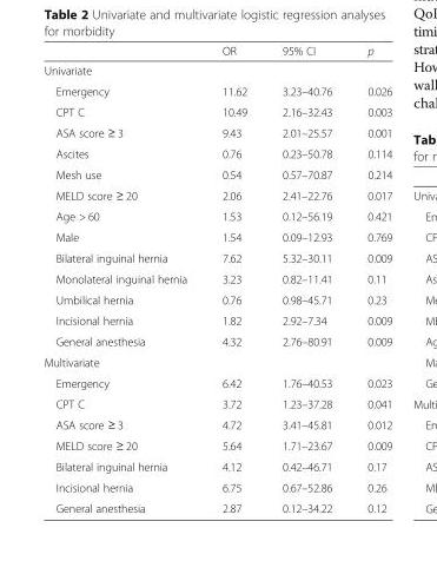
<table><thead><tr><td></td><td>OR</td><td>95% CI</td><td>p</td></tr></thead><tbody><tr><td colspan="4">Univariate</td></tr><tr><td>Emergency</td><td>11.62</td><td>3.23–40.76</td><td>0.026</td></tr><tr><td>CPT C</td><td>10.49</td><td>2.16–32.43</td><td>0.003</td></tr><tr><td>ASA score ≥ 3</td><td>9.43</td><td>2.01–25.57</td><td>0.001</td></tr><tr><td>Ascites</td><td>0.76</td><td>0.23–50.78</td><td>0.114</td></tr><tr><td>Mesh use</td><td>0.54</td><td>0.57–70.87</td><td>0.214</td></tr><tr><td>MELD score ≥ 20</td><td>2.06</td><td>2.41–22.76</td><td>0.017</td></tr><tr><td>Age &gt; 60</td><td>1.53</td><td>0.12–56.19</td><td>0.421</td></tr><tr><td>Male</td><td>1.54</td><td>0.09–12.93</td><td>0.769</td></tr><tr><td>Bilateral inguinal hernia</td><td>7.62</td><td>5.32–30.11</td><td>0.009</td></tr><tr><td>Monolateral inguinal hernia</td><td>3.23</td><td>0.82–11.41</td><td>0.11</td></tr><tr><td>Umbilical hernia</td><td>0.76</td><td>0.98–45.71</td><td>0.23</td></tr><tr><td>Incisional hernia</td><td>1.82</td><td>2.92–7.34</td><td>0.009</td></tr><tr><td>General anesthesia</td><td>4.32</td><td>2.76–80.91</td><td>0.009</td></tr><tr><td colspan="4">Multivariate</td></tr><tr><td>Emergency</td><td>6.42</td><td>1.76–40.53</td><td>0.023</td></tr><tr><td>CPT C</td><td>3.72</td><td>1.23–37.28</td><td>0.041</td></tr><tr><td>ASA score ≥ 3</td><td>4.72</td><td>3.41–45.81</td><td>0.012</td></tr><tr><td>MELD score ≥ 20</td><td>5.64</td><td>1.71–23.67</td><td>0.009</td></tr><tr><td>Bilateral inguinal hernia</td><td>4.12</td><td>0.42–46.71</td><td>0.17</td></tr><tr><td>Incisional hernia</td><td>6.75</td><td>0.67–52.86</td><td>0.26</td></tr><tr><td>General anesthesia</td><td>2.87</td><td>0.12–34.22</td><td>0.12</td></tr></tbody></table>